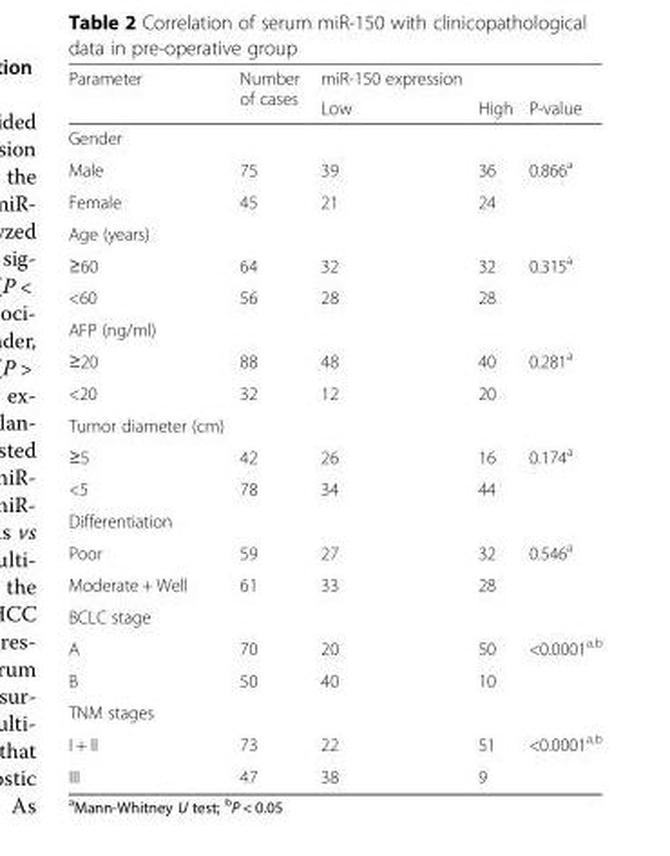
<table><thead><tr><td rowspan="2">Parameter</td><td rowspan="2">Number of cases</td><td rowspan="2">miR-150 expression Low</td><td rowspan="2">High</td><td rowspan="2">P-value</td></tr><tr></tr></thead><tbody><tr><td colspan="5">Gender</td></tr><tr><td>Male</td><td>75</td><td>39</td><td>36</td><td>0.866<sup>a</sup></td></tr><tr><td>Female</td><td>45</td><td>21</td><td>24</td><td></td></tr><tr><td colspan="5">Age (years)</td></tr><tr><td>≥60</td><td>64</td><td>32</td><td>32</td><td>0.315<sup>a</sup></td></tr><tr><td>&lt;60</td><td>56</td><td>28</td><td>28</td><td></td></tr><tr><td colspan="5">AFP (ng/ml)</td></tr><tr><td>≥20</td><td>88</td><td>48</td><td>40</td><td>0.281<sup>a</sup></td></tr><tr><td>&lt;20</td><td>32</td><td>12</td><td>20</td><td></td></tr><tr><td colspan="5">Tumor diameter (cm)</td></tr><tr><td>≥5</td><td>42</td><td>26</td><td>16</td><td>0.174<sup>a</sup></td></tr><tr><td>&lt;5</td><td>78</td><td>34</td><td>44</td><td></td></tr><tr><td colspan="5">Differentiation</td></tr><tr><td>Poor</td><td>59</td><td>27</td><td>32</td><td>0.546<sup>a</sup></td></tr><tr><td>Moderate + Well</td><td>61</td><td>33</td><td>28</td><td></td></tr><tr><td colspan="5">BCLC stage</td></tr><tr><td>A</td><td>70</td><td>20</td><td>50</td><td>&lt;0.0001<sup>a,b</sup></td></tr><tr><td>B</td><td>50</td><td>40</td><td>10</td><td></td></tr><tr><td colspan="5">TNM stages</td></tr><tr><td>I + II</td><td>73</td><td>22</td><td>51</td><td>&lt;0.0001<sup>a,b</sup></td></tr><tr><td>III</td><td>47</td><td>38</td><td>9</td><td></td></tr></tbody></table>